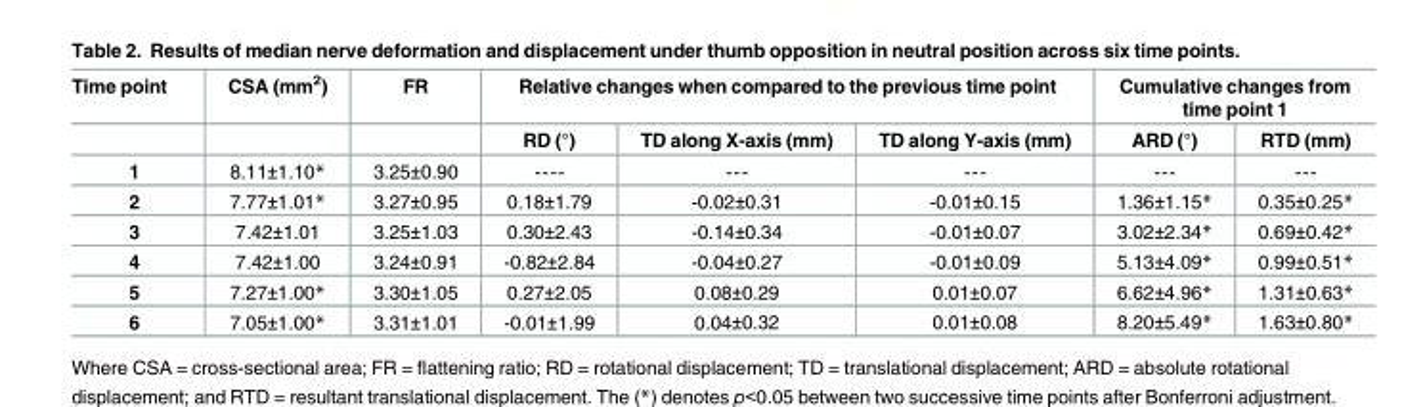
<table><thead><tr><td rowspan="2">Time point</td><td rowspan="2">CSA (mm<sup>2</sup>)</td><td rowspan="2">FR</td><td colspan="3">Relative changes when compared to the previous time point</td><td colspan="2">Cumulative changes from time point 1</td></tr><tr><td>RD (°)</td><td>TD along X-axis (mm)</td><td>TD along Y-axis (mm)</td><td>ARD (°)</td><td>RTD (mm)</td></tr></thead><tbody><tr><td>1</td><td>8.11±1.10*</td><td>3.25±0.90</td><td>----</td><td>---</td><td>---</td><td>---</td><td>---</td></tr><tr><td>2</td><td>7.77±1.01*</td><td>3.27±0.95</td><td>0.18±1.79</td><td>-0.02±0.31</td><td>-0.01±0.15</td><td>1.36±1.15*</td><td>0.35±0.25*</td></tr><tr><td>3</td><td>7.42±1.01</td><td>3.25±1.03</td><td>0.30±2.43</td><td>-0.14±0.34</td><td>-0.01±0.07</td><td>3.02±2.34*</td><td>0.69±0.42*</td></tr><tr><td>4</td><td>7.42±1.00</td><td>3.24±0.91</td><td>-0.82±2.84</td><td>-0.04±0.27</td><td>-0.01±0.09</td><td>5.13±4.09*</td><td>0.99±0.51*</td></tr><tr><td>5</td><td>7.27±1.00*</td><td>3.30±1.05</td><td>0.27±2.05</td><td>0.08±0.29</td><td>0.01±0.07</td><td>6.62±4.96*</td><td>1.31±0.63*</td></tr><tr><td>6</td><td>7.05±1.00*</td><td>3.31±1.01</td><td>-0.01±1.99</td><td>0.04±0.32</td><td>0.01±0.08</td><td>8.20±5.49*</td><td>1.63±0.80*</td></tr></tbody></table>